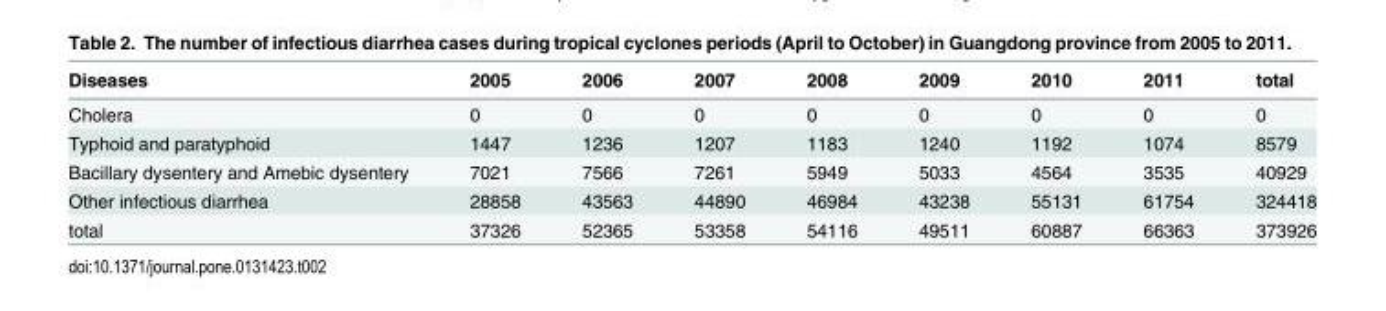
<table><thead><tr><td>Diseases</td><td>2005</td><td>2006</td><td>2007</td><td>2008</td><td>2009</td><td>2010</td><td>2011</td><td>total</td></tr></thead><tbody><tr><td>Cholera</td><td>0</td><td>0</td><td>0</td><td>0</td><td>0</td><td>0</td><td>0</td><td>0</td></tr><tr><td>Typhoid and paratyphoid</td><td>1447</td><td>1236</td><td>1207</td><td>1183</td><td>1240</td><td>1192</td><td>1074</td><td>8579</td></tr><tr><td>Bacillary dysentery and Amebic dysentery</td><td>7021</td><td>7566</td><td>7261</td><td>5949</td><td>5033</td><td>4564</td><td>3535</td><td>40929</td></tr><tr><td>Other infectious diarrhea</td><td>28858</td><td>43563</td><td>44890</td><td>46984</td><td>43238</td><td>55131</td><td>61754</td><td>324418</td></tr><tr><td>total</td><td>37326</td><td>52365</td><td>53358</td><td>54116</td><td>49511</td><td>60887</td><td>66363</td><td>373926</td></tr></tbody></table>